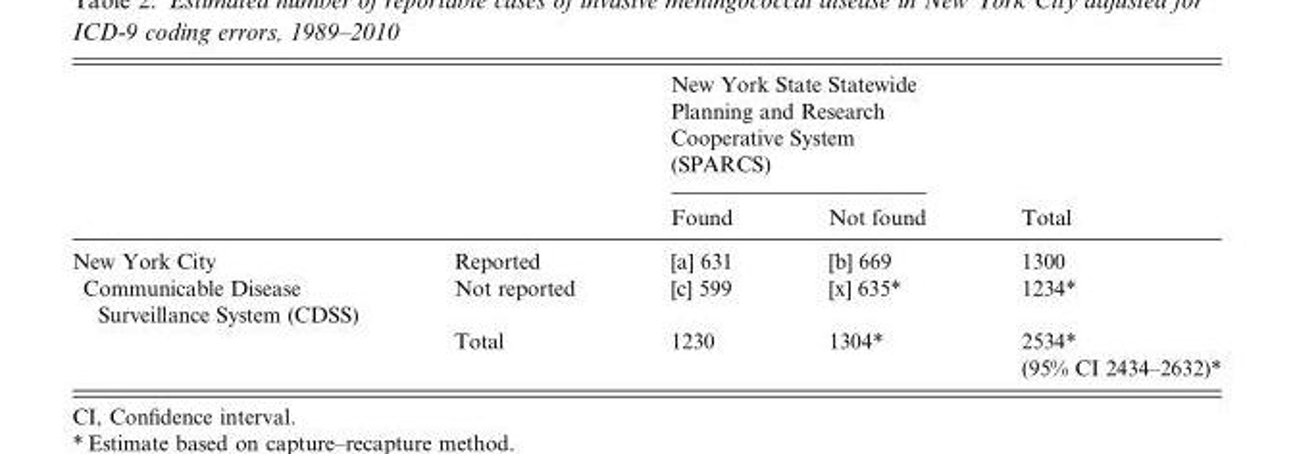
<table><thead><tr><td rowspan="2"></td><td rowspan="2"></td><td colspan="2">New York State Statewide Planning and Research Cooperative System (SPARCS)</td><td rowspan="2">Total</td></tr><tr><td>Found</td><td>Not found</td></tr></thead><tbody><tr><td rowspan="3">New York City Communicable Disease Surveillance System (CDSS)</td><td>Reported</td><td>[a] 631</td><td>[b] 669</td><td>1300</td></tr><tr><td>Not reported</td><td>[c] 599</td><td>[x] 635*</td><td>1234*</td></tr><tr><td>Total</td><td>1230</td><td>1304*</td><td>2534* (95% CI 2434–2632)*</td></tr></tbody></table>